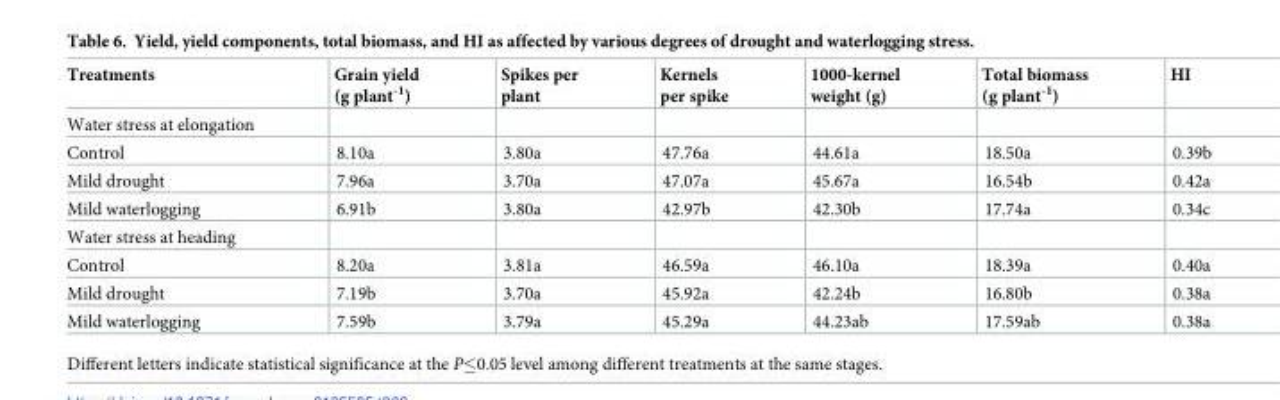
<table><thead><tr><td>Treatments</td><td>Grain yield (g plant<sup>-1</sup>)</td><td>Spikes per plant</td><td>Kernels per spike</td><td>1000-kernel weight (g)</td><td>Total biomass (g plant<sup>-1</sup>)</td><td>HI</td></tr></thead><tbody><tr><td colspan="7">Water stress at elongation</td></tr><tr><td>Control</td><td>8.10a</td><td>3.80a</td><td>47.76a</td><td>44.61a</td><td>18.50a</td><td>0.39b</td></tr><tr><td>Mild drought</td><td>7.96a</td><td>3.70a</td><td>47.07a</td><td>45.67a</td><td>16.54b</td><td>0.42a</td></tr><tr><td>Mild waterlogging</td><td>6.91b</td><td>3.80a</td><td>42.97b</td><td>42.30b</td><td>17.74a</td><td>0.34c</td></tr><tr><td colspan="7">Water stress at heading</td></tr><tr><td>Control</td><td>8.20a</td><td>3.81a</td><td>46.59a</td><td>46.10a</td><td>18.39a</td><td>0.40a</td></tr><tr><td>Mild drought</td><td>7.19b</td><td>3.70a</td><td>45.92a</td><td>42.24b</td><td>16.80b</td><td>0.38a</td></tr><tr><td>Mild waterlogging</td><td>7.59b</td><td>3.79a</td><td>45.29a</td><td>44.23ab</td><td>17.59ab</td><td>0.38a</td></tr></tbody></table>